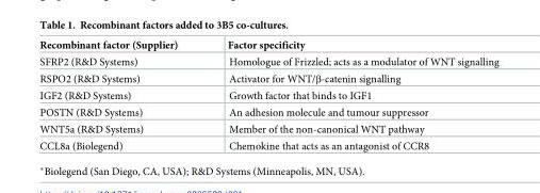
<table><thead><tr><td>Recombinant factor (Supplier)</td><td>Factor specificity</td></tr></thead><tbody><tr><td>SFRP2 (R&amp;D Systems)</td><td>Homologue of Frizzled; acts as a modulator of WNT signalling</td></tr><tr><td>RSPO2 (R&amp;D Systems)</td><td>Activator for WNT/β-catenin signalling</td></tr><tr><td>IGF2 (R&amp;D Systems)</td><td>Growth factor that binds to IGF1</td></tr><tr><td>POSTN (R&amp;D Systems)</td><td>An adhesion molecule and tumour suppressor</td></tr><tr><td>WNT5a (R&amp;D Systems)</td><td>Member of the non-canonical WNT pathway</td></tr><tr><td>CCL8a (Biolegend)</td><td>Chemokine that acts as an antagonist of CCR8</td></tr></tbody></table>